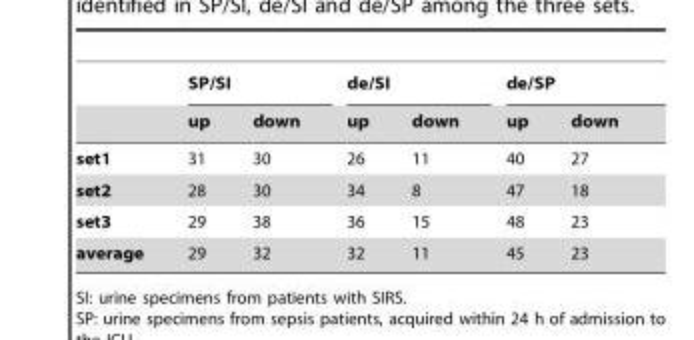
<table><thead><tr><td rowspan="2"></td><td colspan="2">SP/SI</td><td colspan="2">de/SI</td><td colspan="2">de/SP</td></tr><tr><td>up</td><td>down</td><td>up</td><td>down</td><td>up</td><td>down</td></tr></thead><tbody><tr><td>set1</td><td>31</td><td>30</td><td>26</td><td>11</td><td>40</td><td>27</td></tr><tr><td>set2</td><td>28</td><td>30</td><td>34</td><td>8</td><td>47</td><td>18</td></tr><tr><td>set3</td><td>29</td><td>38</td><td>36</td><td>15</td><td>48</td><td>23</td></tr><tr><td>average</td><td>29</td><td>32</td><td>32</td><td>11</td><td>45</td><td>23</td></tr></tbody></table>